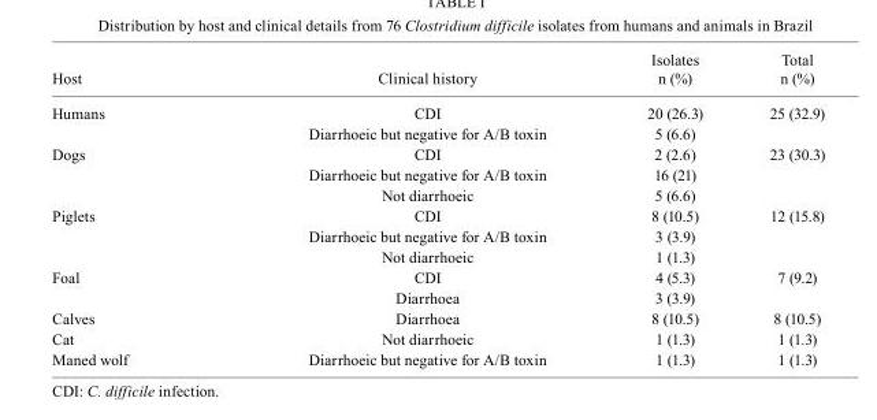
<table><thead><tr><td>Host</td><td>Clinical history</td><td>Isolates n (%)</td><td>Total n (%)</td></tr></thead><tbody><tr><td rowspan="2">Humans</td><td>CDI</td><td>20 (26.3)</td><td rowspan="2">25 (32.9)</td></tr><tr><td>Diarrhoeic but negative for A/B toxin</td><td>5 (6.6)</td></tr><tr><td rowspan="3">Dogs</td><td>CDI</td><td>2 (2.6)</td><td rowspan="3">23 (30.3)</td></tr><tr><td>Diarrhoeic but negative for A/B toxin</td><td>16 (21)</td></tr><tr><td>Not diarrhoeic</td><td>5 (6.6)</td></tr><tr><td rowspan="3">Piglets</td><td>CDI</td><td>8 (10.5)</td><td rowspan="3">12 (15.8)</td></tr><tr><td>Diarrhoeic but negative for A/B toxin</td><td>3 (3.9)</td></tr><tr><td>Not diarrhoeic</td><td>1 (1.3)</td></tr><tr><td rowspan="2">Foal</td><td>CDI</td><td>4 (5.3)</td><td rowspan="2">7 (9.2)</td></tr><tr><td>Diarrhoea</td><td>3 (3.9)</td></tr><tr><td>Calves</td><td>Diarrhoea</td><td>8 (10.5)</td><td>8 (10.5)</td></tr><tr><td>Cat</td><td>Not diarrhoeic</td><td>1 (1.3)</td><td>1 (1.3)</td></tr><tr><td>Maned wolf</td><td>Diarrhoeic but negative for A/B toxin</td><td>1 (1.3)</td><td>1 (1.3)</td></tr></tbody></table>